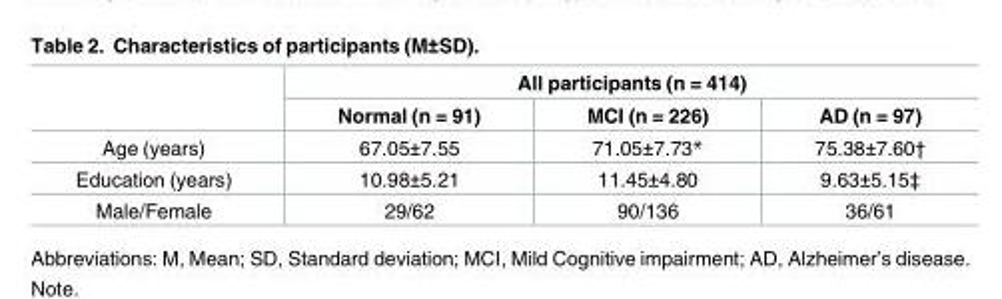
<table><thead><tr><td rowspan="2"></td><td colspan="3">All participants (n = 414)</td></tr><tr><td>Normal (n = 91)</td><td>MCI (n = 226)</td><td>AD (n = 97)</td></tr></thead><tbody><tr><td>Age (years)</td><td>67.05±7.55</td><td>71.05±7.73*</td><td>75.38±7.60†</td></tr><tr><td>Education (years)</td><td>10.98±5.21</td><td>11.45±4.80</td><td>9.63±5.15‡</td></tr><tr><td>Male/Female</td><td>29/62</td><td>90/136</td><td>36/61</td></tr></tbody></table>